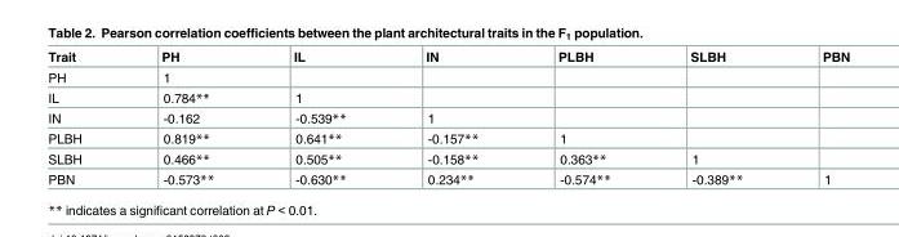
<table><thead><tr><td>Trait</td><td>PH</td><td>IL</td><td>IN</td><td>PLBH</td><td>SLBH</td><td>PBN</td></tr></thead><tbody><tr><td>PH</td><td>1</td><td></td><td></td><td></td><td></td><td></td></tr><tr><td>IL</td><td>0.784**</td><td>1</td><td></td><td></td><td></td><td></td></tr><tr><td>IN</td><td>-0.162</td><td>-0.539**</td><td>1</td><td></td><td></td><td></td></tr><tr><td>PLBH</td><td>0.819**</td><td>0.641**</td><td>-0.157**</td><td>1</td><td></td><td></td></tr><tr><td>SLBH</td><td>0.466**</td><td>0.505**</td><td>-0.158**</td><td>0.363**</td><td>1</td><td></td></tr><tr><td>PBN</td><td>-0.573**</td><td>-0.630**</td><td>0.234**</td><td>-0.574**</td><td>-0.389**</td><td>1</td></tr></tbody></table>